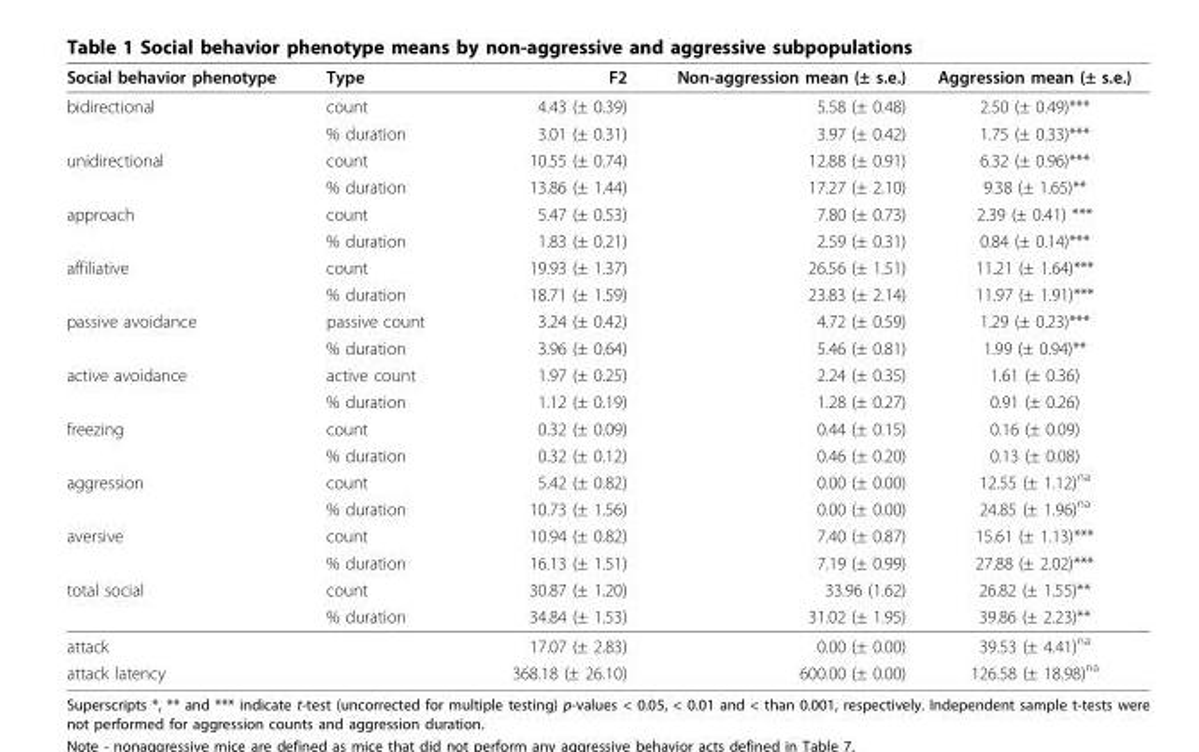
<table><thead><tr><td>Social behavior phenotype</td><td>Type</td><td>F2</td><td>Non-aggression mean (± s.e.)</td><td>Aggression mean (± s.e.)</td></tr></thead><tbody><tr><td rowspan="2">bidirectional</td><td>count</td><td>4.43 (± 0.39)</td><td>5.58 (± 0.48)</td><td>2.50 (± 0.49)***</td></tr><tr><td>% duration</td><td>3.01 (± 0.31)</td><td>3.97 (± 0.42)</td><td>1.75 (± 0.33)***</td></tr><tr><td rowspan="2">unidirectional</td><td>count</td><td>10.55 (± 0.74)</td><td>12.88 (± 0.91)</td><td>6.32 (± 0.96)***</td></tr><tr><td>% duration</td><td>13.86 (± 1.44)</td><td>17.27 (± 2.10)</td><td>9.38 (± 1.65)**</td></tr><tr><td rowspan="2">approach</td><td>count</td><td>5.47 (± 0.53)</td><td>7.80 (± 0.73)</td><td>2.39 (± 0.41) ***</td></tr><tr><td>% duration</td><td>1.83 (± 0.21)</td><td>2.59 (± 0.31)</td><td>0.84 (± 0.14)***</td></tr><tr><td rowspan="2">affiliative</td><td>count</td><td>19.93 (± 1.37)</td><td>26.56 (± 1.51)</td><td>11.21 (± 1.64)***</td></tr><tr><td>% duration</td><td>18.71 (± 1.59)</td><td>23.83 (± 2.14)</td><td>11.97 (± 1.91)***</td></tr><tr><td rowspan="2">passive avoidance</td><td>passive count</td><td>3.24 (± 0.42)</td><td>4.72 (± 0.59)</td><td>1.29 (± 0.23)***</td></tr><tr><td>% duration</td><td>3.96 (± 0.64)</td><td>5.46 (± 0.81)</td><td>1.99 (± 0.94)**</td></tr><tr><td rowspan="2">active avoidance</td><td>active count</td><td>1.97 (± 0.25)</td><td>2.24 (± 0.35)</td><td>1.61 (± 0.36)</td></tr><tr><td>% duration</td><td>1.12 (± 0.19)</td><td>1.28 (± 0.27)</td><td>0.91 (± 0.26)</td></tr><tr><td rowspan="2">freezing</td><td>count</td><td>0.32 (± 0.09)</td><td>0.44 (± 0.15)</td><td>0.16 (± 0.09)</td></tr><tr><td>% duration</td><td>0.32 (± 0.12)</td><td>0.46 (± 0.20)</td><td>0.13 (± 0.08)</td></tr><tr><td rowspan="2">aggression</td><td>count</td><td>5.42 (± 0.82)</td><td>0.00 (± 0.00)</td><td>12.55 (± 1.12)<sup>na</sup></td></tr><tr><td>% duration</td><td>10.73 (± 1.56)</td><td>0.00 (± 0.00)</td><td>24.85 (± 1.96)<sup>na</sup></td></tr><tr><td rowspan="2">aversive</td><td>count</td><td>10.94 (± 0.82)</td><td>7.40 (± 0.87)</td><td>15.61 (± 1.13)***</td></tr><tr><td>% duration</td><td>16.13 (± 1.51)</td><td>7.19 (± 0.99)</td><td>27.88 (± 2.02)***</td></tr><tr><td rowspan="2">total social</td><td>count</td><td>30.87 (± 1.20)</td><td>33.96 (1.62)</td><td>26.82 (± 1.55)**</td></tr><tr><td>% duration</td><td>34.84 (± 1.53)</td><td>31.02 (± 1.95)</td><td>39.86 (± 2.23)**</td></tr><tr><td>attack</td><td></td><td>17.07 (± 2.83)</td><td>0.00 (± 0.00)</td><td>39.53 (± 4.41)<sup>na</sup></td></tr><tr><td>attack latency</td><td></td><td>368.18 (± 26.10)</td><td>600.00 (± 0.00)</td><td>126.58 (± 18.98)<sup>na</sup></td></tr></tbody></table>